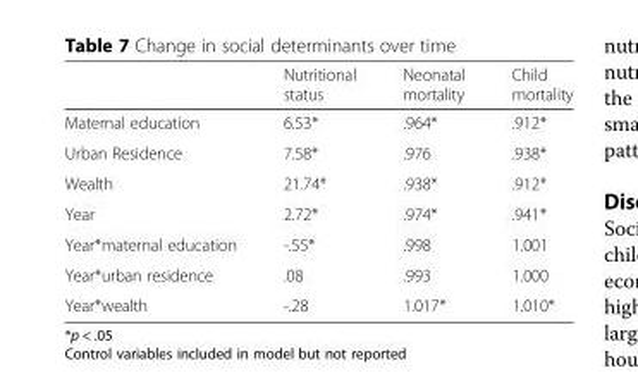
<table><thead><tr><td></td><td>Nutritional status</td><td>Neonatal mortality</td><td>Child mortality</td></tr></thead><tbody><tr><td>Maternal education</td><td>6.53*</td><td>.964*</td><td>.912*</td></tr><tr><td>Urban Residence</td><td>7.58*</td><td>.976</td><td>.938*</td></tr><tr><td>Wealth</td><td>21.74*</td><td>.938*</td><td>.912*</td></tr><tr><td>Year</td><td>2.72*</td><td>.974*</td><td>.941*</td></tr><tr><td>Year*maternal education</td><td>-.55*</td><td>.998</td><td>1.001</td></tr><tr><td>Year*urban residence</td><td>.08</td><td>.993</td><td>1.000</td></tr><tr><td>Year*wealth</td><td>-.28</td><td>1.017*</td><td>1.010*</td></tr></tbody></table>